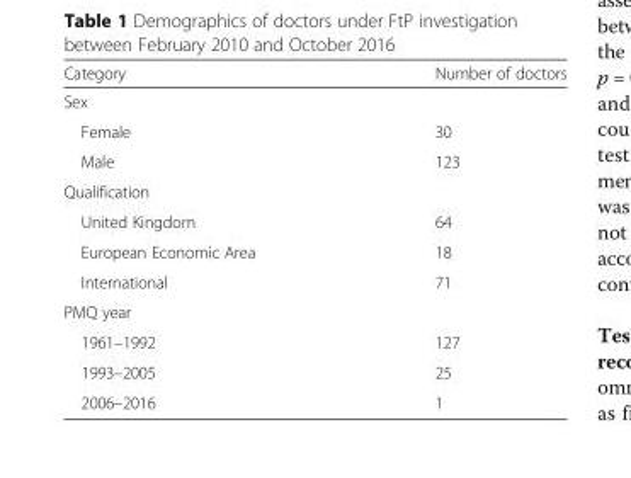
<table><thead><tr><td>Category</td><td>Number of doctors</td></tr></thead><tbody><tr><td colspan="2">Sex</td></tr><tr><td>Female</td><td>30</td></tr><tr><td>Male</td><td>123</td></tr><tr><td colspan="2">Qualification</td></tr><tr><td>United Kingdom</td><td>64</td></tr><tr><td>European Economic Area</td><td>18</td></tr><tr><td>International</td><td>71</td></tr><tr><td colspan="2">PMQ year</td></tr><tr><td>1961–1992</td><td>127</td></tr><tr><td>1993–2005</td><td>25</td></tr><tr><td>2006–2016</td><td>1</td></tr></tbody></table>